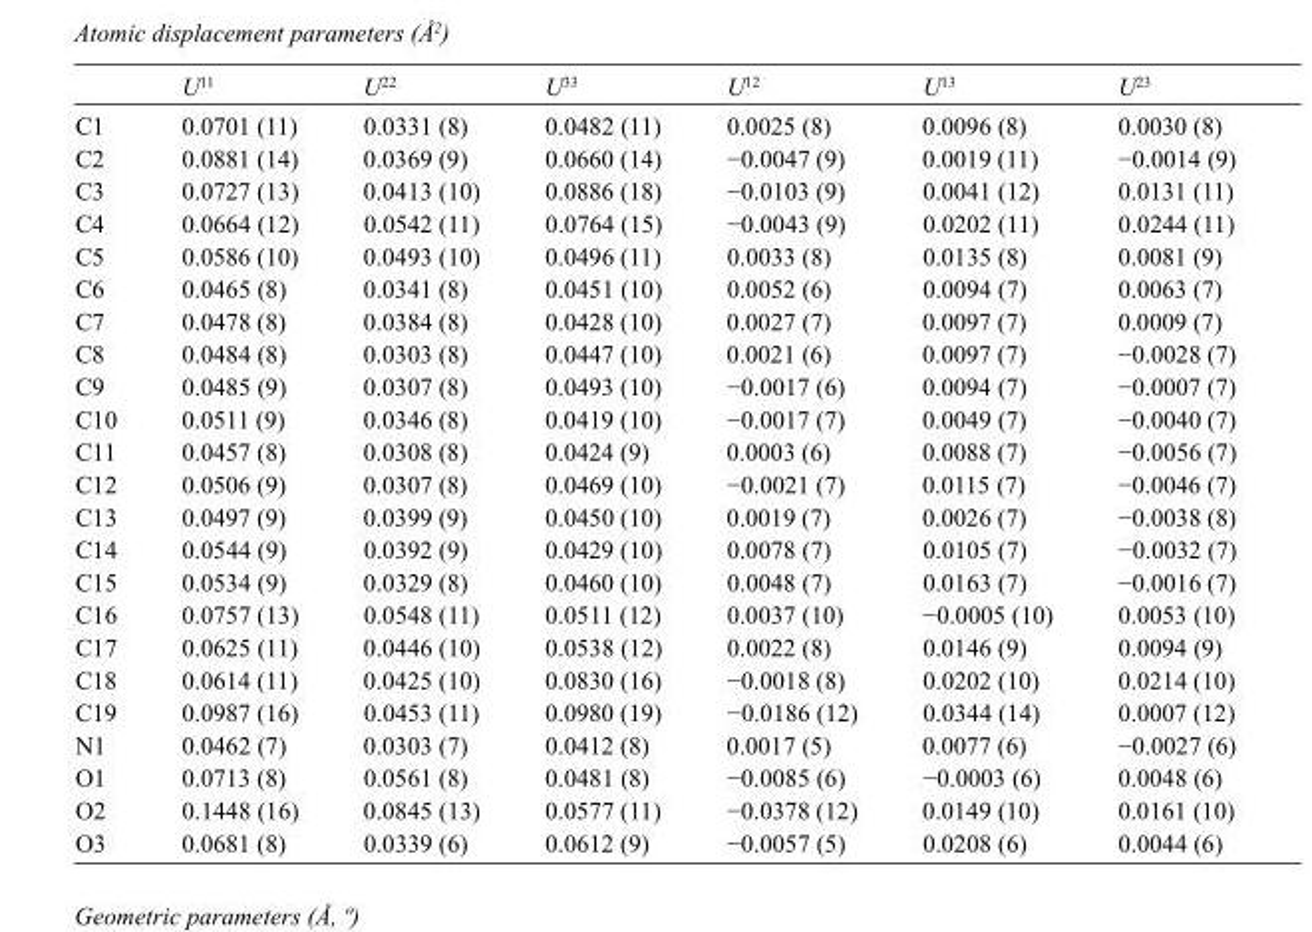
<table><thead><tr><td></td><td>U<sup>11</sup></td><td>U<sup>22</sup></td><td>U<sup>33</sup></td><td>U<sup>12</sup></td><td>U<sup>13</sup></td><td>U<sup>23</sup></td></tr></thead><tbody><tr><td>C1</td><td>0.0701 (11)</td><td>0.0331 (8)</td><td>0.0482 (11)</td><td>0.0025 (8)</td><td>0.0096 (8)</td><td>0.0030 (8)</td></tr><tr><td>C2</td><td>0.0881 (14)</td><td>0.0369 (9)</td><td>0.0660 (14)</td><td>−0.0047 (9)</td><td>0.0019 (11)</td><td>−0.0014 (9)</td></tr><tr><td>C3</td><td>0.0727 (13)</td><td>0.0413 (10)</td><td>0.0886 (18)</td><td>−0.0103 (9)</td><td>0.0041 (12)</td><td>0.0131 (11)</td></tr><tr><td>C4</td><td>0.0664 (12)</td><td>0.0542 (11)</td><td>0.0764 (15)</td><td>−0.0043 (9)</td><td>0.0202 (11)</td><td>0.0244 (11)</td></tr><tr><td>C5</td><td>0.0586 (10)</td><td>0.0493 (10)</td><td>0.0496 (11)</td><td>0.0033 (8)</td><td>0.0135 (8)</td><td>0.0081 (9)</td></tr><tr><td>C6</td><td>0.0465 (8)</td><td>0.0341 (8)</td><td>0.0451 (10)</td><td>0.0052 (6)</td><td>0.0094 (7)</td><td>0.0063 (7)</td></tr><tr><td>C7</td><td>0.0478 (8)</td><td>0.0384 (8)</td><td>0.0428 (10)</td><td>0.0027 (7)</td><td>0.0097 (7)</td><td>0.0009 (7)</td></tr><tr><td>C8</td><td>0.0484 (8)</td><td>0.0303 (8)</td><td>0.0447 (10)</td><td>0.0021 (6)</td><td>0.0097 (7)</td><td>−0.0028 (7)</td></tr><tr><td>C9</td><td>0.0485 (9)</td><td>0.0307 (8)</td><td>0.0493 (10)</td><td>−0.0017 (6)</td><td>0.0094 (7)</td><td>−0.0007 (7)</td></tr><tr><td>C10</td><td>0.0511 (9)</td><td>0.0346 (8)</td><td>0.0419 (10)</td><td>−0.0017 (7)</td><td>0.0049 (7)</td><td>−0.0040 (7)</td></tr><tr><td>C11</td><td>0.0457 (8)</td><td>0.0308 (8)</td><td>0.0424 (9)</td><td>0.0003 (6)</td><td>0.0088 (7)</td><td>−0.0056 (7)</td></tr><tr><td>C12</td><td>0.0506 (9)</td><td>0.0307 (8)</td><td>0.0469 (10)</td><td>−0.0021 (7)</td><td>0.0115 (7)</td><td>−0.0046 (7)</td></tr><tr><td>C13</td><td>0.0497 (9)</td><td>0.0399 (9)</td><td>0.0450 (10)</td><td>0.0019 (7)</td><td>0.0026 (7)</td><td>−0.0038 (8)</td></tr><tr><td>C14</td><td>0.0544 (9)</td><td>0.0392 (9)</td><td>0.0429 (10)</td><td>0.0078 (7)</td><td>0.0105 (7)</td><td>−0.0032 (7)</td></tr><tr><td>C15</td><td>0.0534 (9)</td><td>0.0329 (8)</td><td>0.0460 (10)</td><td>0.0048 (7)</td><td>0.0163 (7)</td><td>−0.0016 (7)</td></tr><tr><td>C16</td><td>0.0757 (13)</td><td>0.0548 (11)</td><td>0.0511 (12)</td><td>0.0037 (10)</td><td>−0.0005 (10)</td><td>0.0053 (10)</td></tr><tr><td>C17</td><td>0.0625 (11)</td><td>0.0446 (10)</td><td>0.0538 (12)</td><td>0.0022 (8)</td><td>0.0146 (9)</td><td>0.0094 (9)</td></tr><tr><td>C18</td><td>0.0614 (11)</td><td>0.0425 (10)</td><td>0.0830 (16)</td><td>−0.0018 (8)</td><td>0.0202 (10)</td><td>0.0214 (10)</td></tr><tr><td>C19</td><td>0.0987 (16)</td><td>0.0453 (11)</td><td>0.0980 (19)</td><td>−0.0186 (12)</td><td>0.0344 (14)</td><td>0.0007 (12)</td></tr><tr><td>N1</td><td>0.0462 (7)</td><td>0.0303 (7)</td><td>0.0412 (8)</td><td>0.0017 (5)</td><td>0.0077 (6)</td><td>−0.0027 (6)</td></tr><tr><td>O1</td><td>0.0713 (8)</td><td>0.0561 (8)</td><td>0.0481 (8)</td><td>−0.0085 (6)</td><td>−0.0003 (6)</td><td>0.0048 (6)</td></tr><tr><td>O2</td><td>0.1448 (16)</td><td>0.0845 (13)</td><td>0.0577 (11)</td><td>−0.0378 (12)</td><td>0.0149 (10)</td><td>0.0161 (10)</td></tr><tr><td>O3</td><td>0.0681 (8)</td><td>0.0339 (6)</td><td>0.0612 (9)</td><td>−0.0057 (5)</td><td>0.0208 (6)</td><td>0.0044 (6)</td></tr></tbody></table>